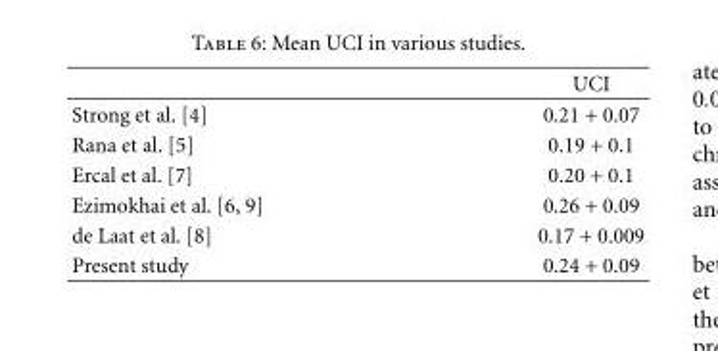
<table><thead><tr><td></td><td>UCI</td></tr></thead><tbody><tr><td>Strong et al. [4]</td><td>0.21 + 0.07</td></tr><tr><td>Rana et al. [5]</td><td>0.19 + 0.1</td></tr><tr><td>Ercal et al. [7]</td><td>0.20 + 0.1</td></tr><tr><td>Ezimokhai et al. [6, 9]</td><td>0.26 + 0.09</td></tr><tr><td>de Laat et al. [8]</td><td>0.17 + 0.009</td></tr><tr><td>Present study</td><td>0.24 + 0.09</td></tr></tbody></table>